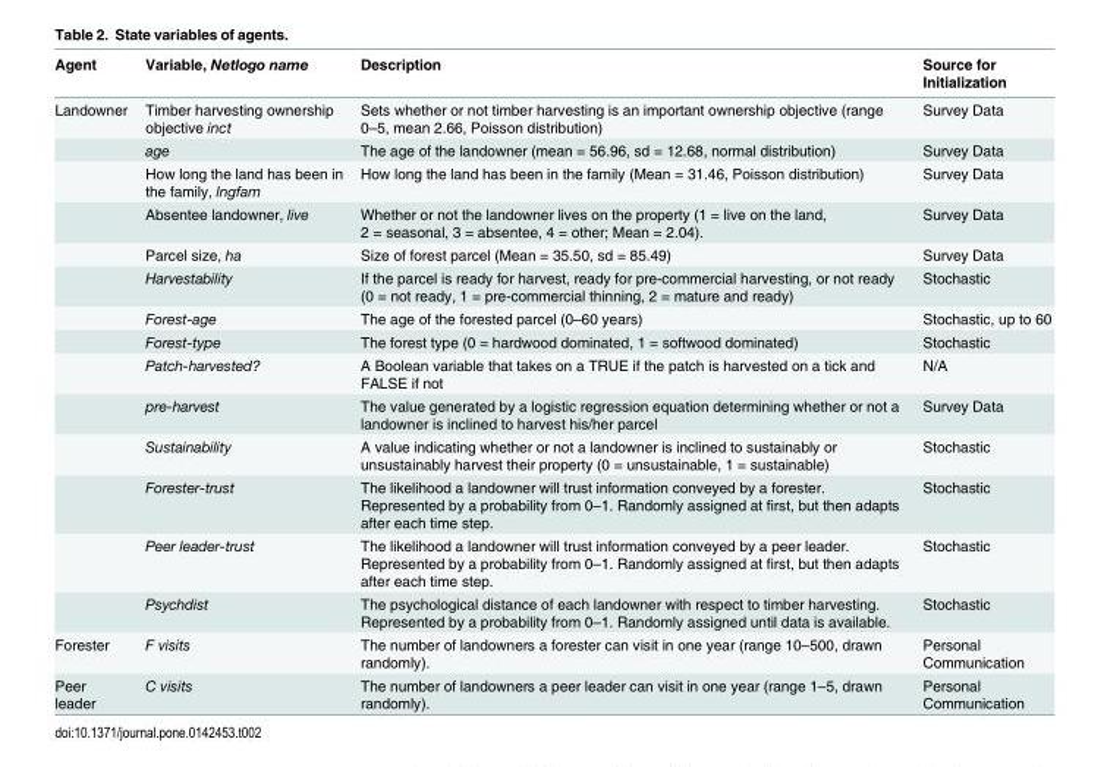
<table><thead><tr><td>Agent</td><td>Variable, Netlogo name</td><td>Description</td><td>Source for Initialization</td></tr></thead><tbody><tr><td rowspan="14">Landowner</td><td>Timber harvesting ownership objective inct</td><td>Sets whether or not timber harvesting is an important ownership objective (range 0–5, mean 2.66, Poisson distribution)</td><td>Survey Data</td></tr><tr><td>age</td><td>The age of the landowner (mean = 56.96, sd = 12.68, normal distribution)</td><td>Survey Data</td></tr><tr><td>How long the land has been in the family, lngfam</td><td>How long the land has been in the family (Mean = 31.46, Poisson distribution)</td><td>Survey Data</td></tr><tr><td>Absentee landowner, live</td><td>Whether or not the landowner lives on the property (1 = live on the land, 2 = seasonal, 3 = absentee, 4 = other; Mean = 2.04).</td><td>Survey Data</td></tr><tr><td>Parcel size, ha</td><td>Size of forest parcel (Mean = 35.50, sd = 85.49)</td><td>Survey Data</td></tr><tr><td>Harvestability</td><td>If the parcel is ready for harvest, ready for pre-commercial harvesting, or not ready (0 = not ready, 1 = pre-commercial thinning, 2 = mature and ready)</td><td>Stochastic</td></tr><tr><td>Forest-age</td><td>The age of the forested parcel (0–60 years)</td><td>Stochastic, up to 60</td></tr><tr><td>Forest-type</td><td>The forest type (0 = hardwood dominated, 1 = softwood dominated)</td><td>Stochastic</td></tr><tr><td>Patch-harvested?</td><td>A Boolean variable that takes on a TRUE if the patch is harvested on a tick and FALSE if not</td><td>N/A</td></tr><tr><td>pre-harvest</td><td>The value generated by a logistic regression equation determining whether or not a landowner is inclined to harvest his/her parcel</td><td>Survey Data</td></tr><tr><td>Sustainability</td><td>A value indicating whether or not a landowner is inclined to sustainably or unsustainably harvest their property (0 = unsustainable, 1 = sustainable)</td><td>Stochastic</td></tr><tr><td>Forester-trust</td><td>The likelihood a landowner will trust information conveyed by a forester. Represented by a probability from 0–1. Randomly assigned at first, but then adapts after each time step.</td><td>Stochastic</td></tr><tr><td>Peer leader-trust</td><td>The likelihood a landowner will trust information conveyed by a peer leader. Represented by a probability from 0–1. Randomly assigned at first, but then adapts after each time step.</td><td>Stochastic</td></tr><tr><td>Psychdist</td><td>The psychological distance of each landowner with respect to timber harvesting. Represented by a probability from 0–1. Randomly assigned until data is available.</td><td>Stochastic</td></tr><tr><td>Forester</td><td>F visits</td><td>The number of landowners a forester can visit in one year (range 10–500, drawn randomly).</td><td>Personal Communication</td></tr><tr><td>Peer leader</td><td>C visits</td><td>The number of landowners a peer leader can visit in one year (range 1–5, drawn randomly).</td><td>Personal Communication</td></tr></tbody></table>